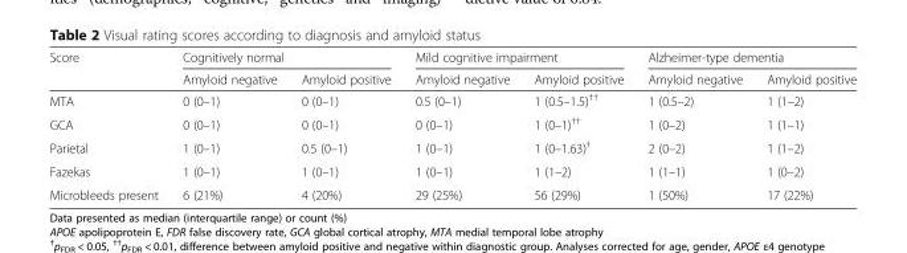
<table><thead><tr><td rowspan="2">Score</td><td colspan="2">Cognitively normal</td><td colspan="2">Mild cognitive impairment</td><td colspan="2">Alzheimer-type dementia</td></tr><tr><td>Amyloid negative</td><td>Amyloid positive</td><td>Amyloid negative</td><td>Amyloid positive</td><td>Amyloid negative</td><td>Amyloid positive</td></tr></thead><tbody><tr><td>MTA</td><td>0 (0–1)</td><td>0 (0–1)</td><td>0.5 (0–1)</td><td>1 (0.5–1.5)<sup>††</sup></td><td>1 (0.5–2)</td><td>1 (1–2)</td></tr><tr><td>GCA</td><td>0 (0–1)</td><td>0 (0–1)</td><td>0 (0–1)</td><td>1 (0–1)<sup>††</sup></td><td>1 (0–2)</td><td>1 (1–1)</td></tr><tr><td>Parietal</td><td>1 (0–1)</td><td>0.5 (0–1)</td><td>1 (0–1)</td><td>1 (0–1.63)<sup>†</sup></td><td>2 (0–2)</td><td>1 (1–2)</td></tr><tr><td>Fazekas</td><td>1 (0–1)</td><td>1 (0–1)</td><td>1 (0–1)</td><td>1 (1–2)</td><td>1 (1–1)</td><td>1 (0–2)</td></tr><tr><td>Microbleeds present</td><td>6 (21%)</td><td>4 (20%)</td><td>29 (25%)</td><td>56 (29%)</td><td>1 (50%)</td><td>17 (22%)</td></tr></tbody></table>